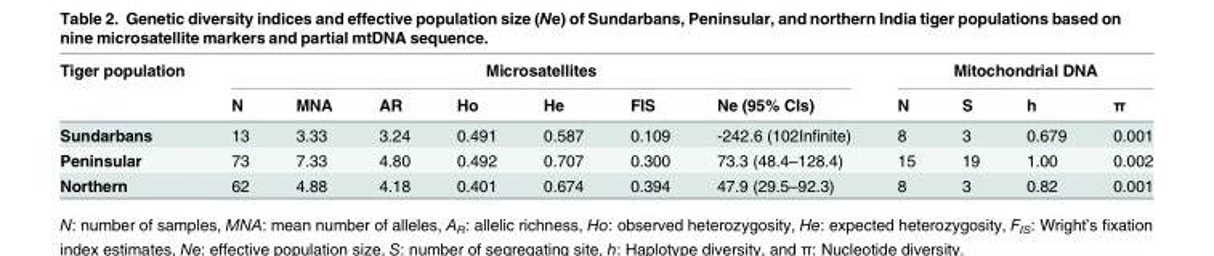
<table><thead><tr><td rowspan="2">Tiger population</td><td colspan="7">Microsatellites</td><td colspan="4">Mitochondrial DNA</td></tr><tr><td>N</td><td>MNA</td><td>AR</td><td>Ho</td><td>He</td><td>FIS</td><td>Ne (95% CIs)</td><td>N</td><td>S</td><td>h</td><td>π</td></tr></thead><tbody><tr><td>Sundarbans</td><td>13</td><td>3.33</td><td>3.24</td><td>0.491</td><td>0.587</td><td>0.109</td><td>-242.6 (102Infinite)</td><td>8</td><td>3</td><td>0.679</td><td>0.001</td></tr><tr><td>Peninsular</td><td>73</td><td>7.33</td><td>4.80</td><td>0.492</td><td>0.707</td><td>0.300</td><td>73.3 (48.4–128.4)</td><td>15</td><td>19</td><td>1.00</td><td>0.002</td></tr><tr><td>Northern</td><td>62</td><td>4.88</td><td>4.18</td><td>0.401</td><td>0.674</td><td>0.394</td><td>47.9 (29.5–92.3)</td><td>8</td><td>3</td><td>0.82</td><td>0.001</td></tr></tbody></table>